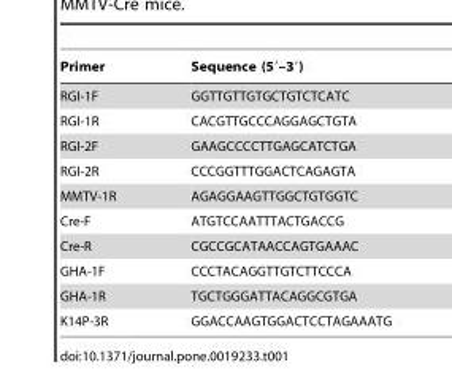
<table><thead><tr><td>Primer</td><td>Sequence (5′–3′)</td></tr></thead><tbody><tr><td>RGI-1F</td><td>GGTTGTTGTGCTGTCTCATC</td></tr><tr><td>RGI-1R</td><td>CACGTTGCCCAGGAGCTGTA</td></tr><tr><td>RGI-2F</td><td>GAAGCCCCTTGAGCATCTGA</td></tr><tr><td>RGI-2R</td><td>CCCGGTTTGGACTCAGAGTA</td></tr><tr><td>MMTV-1R</td><td>AGAGGAAGTTGGCTGTGGTC</td></tr><tr><td>Cre-F</td><td>ATGTCCAATTTACTGACCG</td></tr><tr><td>Cre-R</td><td>CGCCGCATAACCAGTGAAAC</td></tr><tr><td>GHA-1F</td><td>CCCTACAGGTTGTCTTCCCA</td></tr><tr><td>GHA-1R</td><td>TGCTGGGATTACAGGCGTGA</td></tr><tr><td>K14P-3R</td><td>GGACCAAGTGGACTCCTAGAAATG</td></tr></tbody></table>